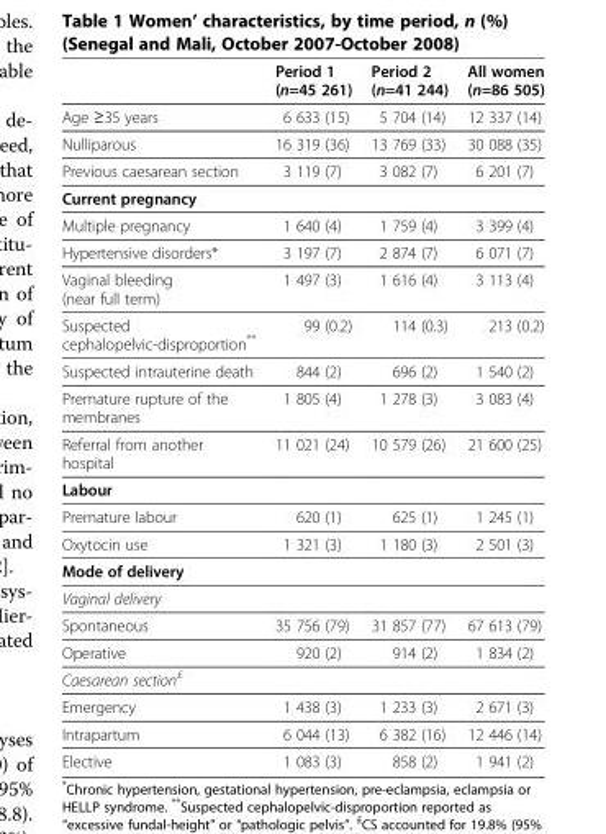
<table><thead><tr><td></td><td>Period 1 (n=45 261)</td><td>Period 2 (n=41 244)</td><td>All women (n=86 505)</td></tr></thead><tbody><tr><td>Age ≥35 years</td><td>6 633 (15)</td><td>5 704 (14)</td><td>12 337 (14)</td></tr><tr><td>Nulliparous</td><td>16 319 (36)</td><td>13 769 (33)</td><td>30 088 (35)</td></tr><tr><td>Previous caesarean section</td><td>3 119 (7)</td><td>3 082 (7)</td><td>6 201 (7)</td></tr><tr><td colspan="4">Current pregnancy</td></tr><tr><td>Multiple pregnancy</td><td>1 640 (4)</td><td>1 759 (4)</td><td>3 399 (4)</td></tr><tr><td>Hypertensive disorders*</td><td>3 197 (7)</td><td>2 874 (7)</td><td>6 071 (7)</td></tr><tr><td>Vaginal bleeding (near full term)</td><td>1 497 (3)</td><td>1 616 (4)</td><td>3 113 (4)</td></tr><tr><td>Suspected cephalopelvic-disproportion**</td><td>99 (0.2)</td><td>114 (0.3)</td><td>213 (0.2)</td></tr><tr><td>Suspected intrauterine death</td><td>844 (2)</td><td>696 (2)</td><td>1 540 (2)</td></tr><tr><td>Premature rupture of the membranes</td><td>1 805 (4)</td><td>1 278 (3)</td><td>3 083 (4)</td></tr><tr><td>Referral from another hospital</td><td>11 021 (24)</td><td>10 579 (26)</td><td>21 600 (25)</td></tr><tr><td colspan="4">Labour</td></tr><tr><td>Premature labour</td><td>620 (1)</td><td>625 (1)</td><td>1 245 (1)</td></tr><tr><td>Oxytocin use</td><td>1 321 (3)</td><td>1 180 (3)</td><td>2 501 (3)</td></tr><tr><td colspan="4">Mode of delivery</td></tr><tr><td colspan="4">Vaginal delivery</td></tr><tr><td>Spontaneous</td><td>35 756 (79)</td><td>31 857 (77)</td><td>67 613 (79)</td></tr><tr><td>Operative</td><td>920 (2)</td><td>914 (2)</td><td>1 834 (2)</td></tr><tr><td colspan="4">Caesarean section<sup>£</sup></td></tr><tr><td>Emergency</td><td>1 438 (3)</td><td>1 233 (3)</td><td>2 671 (3)</td></tr><tr><td>Intrapartum</td><td>6 044 (13)</td><td>6 382 (16)</td><td>12 446 (14)</td></tr><tr><td>Elective</td><td>1 083 (3)</td><td>858 (2)</td><td>1 941 (2)</td></tr></tbody></table>